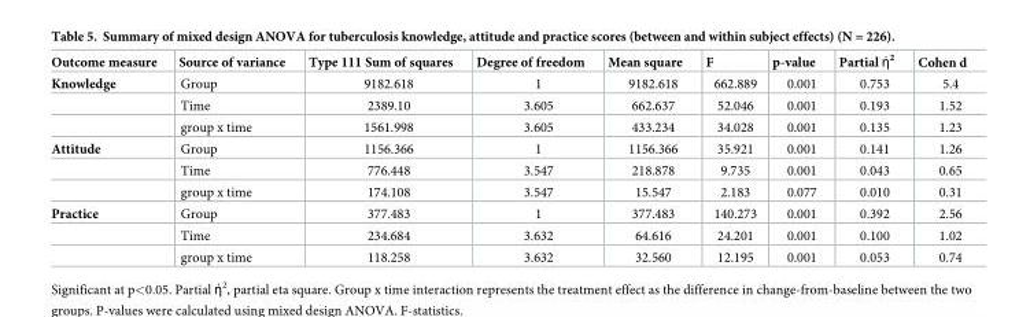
<table><thead><tr><td>Outcome measure</td><td>Source of variance</td><td>Type 111 Sum of squares</td><td>Degree of freedom</td><td>Mean square</td><td>F</td><td>p-value</td><td>Partial ἠ<sup>2</sup></td><td>Cohen d</td></tr></thead><tbody><tr><td rowspan="3">Knowledge</td><td>Group</td><td>9182.618</td><td>1</td><td>9182.618</td><td>662.889</td><td>0.001</td><td>0.753</td><td>5.4</td></tr><tr><td>Time</td><td>2389.10</td><td>3.605</td><td>662.637</td><td>52.046</td><td>0.001</td><td>0.193</td><td>1.52</td></tr><tr><td>group x time</td><td>1561.998</td><td>3.605</td><td>433.234</td><td>34.028</td><td>0.001</td><td>0.135</td><td>1.23</td></tr><tr><td rowspan="3">Attitude</td><td>Group</td><td>1156.366</td><td>1</td><td>1156.366</td><td>35.921</td><td>0.001</td><td>0.141</td><td>1.26</td></tr><tr><td>Time</td><td>776.448</td><td>3.547</td><td>218.878</td><td>9.735</td><td>0.001</td><td>0.043</td><td>0.65</td></tr><tr><td>group x time</td><td>174.108</td><td>3.547</td><td>15.547</td><td>2.183</td><td>0.077</td><td>0.010</td><td>0.31</td></tr><tr><td rowspan="3">Practice</td><td>Group</td><td>377.483</td><td>1</td><td>377.483</td><td>140.273</td><td>0.001</td><td>0.392</td><td>2.56</td></tr><tr><td>Time</td><td>234.684</td><td>3.632</td><td>64.616</td><td>24.201</td><td>0.001</td><td>0.100</td><td>1.02</td></tr><tr><td>group x time</td><td>118.258</td><td>3.632</td><td>32.560</td><td>12.195</td><td>0.001</td><td>0.053</td><td>0.74</td></tr></tbody></table>